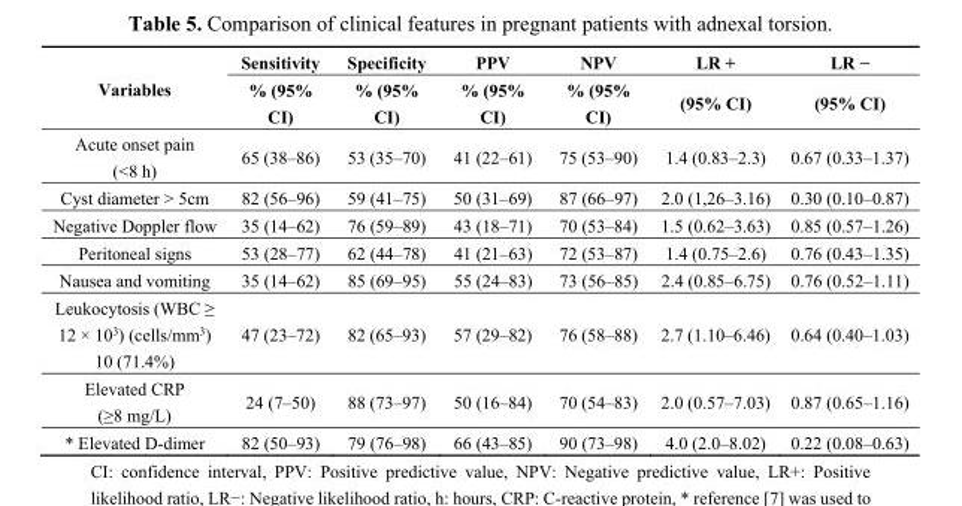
<table><thead><tr><td rowspan="2">Variables</td><td rowspan="2">Sensitivity % (95% CI)</td><td rowspan="2">Specificity % (95% CI)</td><td rowspan="2">PPV % (95% CI)</td><td rowspan="2">NPV % (95% CI)</td><td rowspan="2">LR + (95% CI)</td><td rowspan="2">LR − (95% CI)</td></tr><tr></tr></thead><tbody><tr><td>Acute onset pain (&lt;8 h)</td><td>65 (38–86)</td><td>53 (35–70)</td><td>41 (22–61)</td><td>75 (53–90)</td><td>1.4 (0.83–2.3)</td><td>0.67 (0.33–1.37)</td></tr><tr><td>Cyst diameter &gt; 5cm</td><td>82 (56–96)</td><td>59 (41–75)</td><td>50 (31–69)</td><td>87 (66–97)</td><td>2.0 (1,26–3.16)</td><td>0.30 (0.10–0.87)</td></tr><tr><td>Negative Doppler flow</td><td>35 (14–62)</td><td>76 (59–89)</td><td>43 (18–71)</td><td>70 (53–84)</td><td>1.5 (0.62–3.63)</td><td>0.85 (0.57–1.26)</td></tr><tr><td>Peritoneal signs</td><td>53 (28–77)</td><td>62 (44–78)</td><td>41 (21–63)</td><td>72 (53–87)</td><td>1.4 (0.75–2.6)</td><td>0.76 (0.43–1.35)</td></tr><tr><td>Nausea and vomiting</td><td>35 (14–62)</td><td>85 (69–95)</td><td>55 (24–83)</td><td>73 (56–85)</td><td>2.4 (0.85–6.75)</td><td>0.76 (0.52–1.11)</td></tr><tr><td>Leukocytosis (WBC ≥ 12 × 10<sup>3</sup>) (cells/mm<sup>3</sup>) 10 (71.4%)</td><td>47 (23–72)</td><td>82 (65–93)</td><td>57 (29–82)</td><td>76 (58–88)</td><td>2.7 (1.10–6.46)</td><td>0.64 (0.40–1.03)</td></tr><tr><td>Elevated CRP (≥8 mg/L)</td><td>24 (7–50)</td><td>88 (73–97)</td><td>50 (16–84)</td><td>70 (54–83)</td><td>2.0 (0.57–7.03)</td><td>0.87 (0.65–1.16)</td></tr><tr><td>* Elevated D-dimer</td><td>82 (50–93)</td><td>79 (76–98)</td><td>66 (43–85)</td><td>90 (73–98)</td><td>4.0 (2.0–8.02)</td><td>0.22 (0.08–0.63)</td></tr></tbody></table>